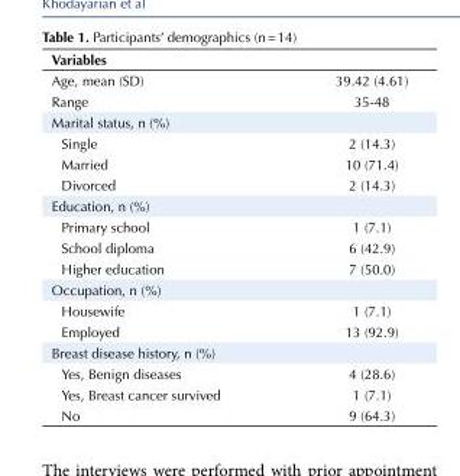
<table><tbody><tr><td colspan="2">Variables</td></tr><tr><td>Age, mean (SD)</td><td>39.42 (4.61)</td></tr><tr><td>Range</td><td>35-48</td></tr><tr><td colspan="2">Marital status, n (%)</td></tr><tr><td>Single</td><td>2 (14.3)</td></tr><tr><td>Married</td><td>10 (71.4)</td></tr><tr><td>Divorced</td><td>2 (14.3)</td></tr><tr><td colspan="2">Education, n (%)</td></tr><tr><td>Primary school</td><td>1 (7.1)</td></tr><tr><td>School diploma</td><td>6 (42.9)</td></tr><tr><td>Higher education</td><td>7 (50.0)</td></tr><tr><td colspan="2">Occupation, n (%)</td></tr><tr><td>Housewife</td><td>1 (7.1)</td></tr><tr><td>Employed</td><td>13 (92.9)</td></tr><tr><td colspan="2">Breast disease history, n (%)</td></tr><tr><td>Yes, Benign diseases</td><td>4 (28.6)</td></tr><tr><td>Yes, Breast cancer survived</td><td>1 (7.1)</td></tr><tr><td>No</td><td>9 (64.3)</td></tr></tbody></table>